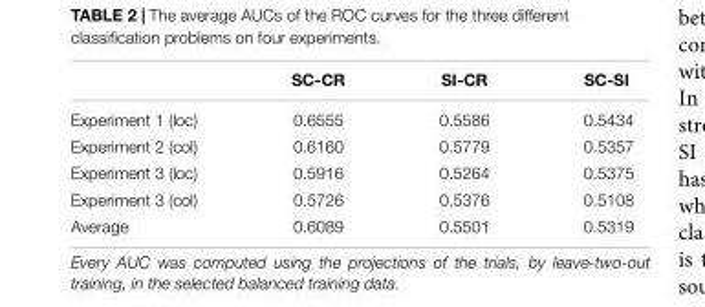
<table><thead><tr><td></td><td>SC-CR</td><td>SI-CR</td><td>SC-SI</td></tr></thead><tbody><tr><td>Experiment 1 (loc)</td><td>0.6555</td><td>0.5586</td><td>0.5434</td></tr><tr><td>Experiment 2 (col)</td><td>0.6160</td><td>0.5779</td><td>0.5357</td></tr><tr><td>Experiment 3 (loc)</td><td>0.5916</td><td>0.5264</td><td>0.5375</td></tr><tr><td>Experiment 3 (col)</td><td>0.5726</td><td>0.5376</td><td>0.5108</td></tr><tr><td>Average</td><td>0.6089</td><td>0.5501</td><td>0.5319</td></tr></tbody></table>